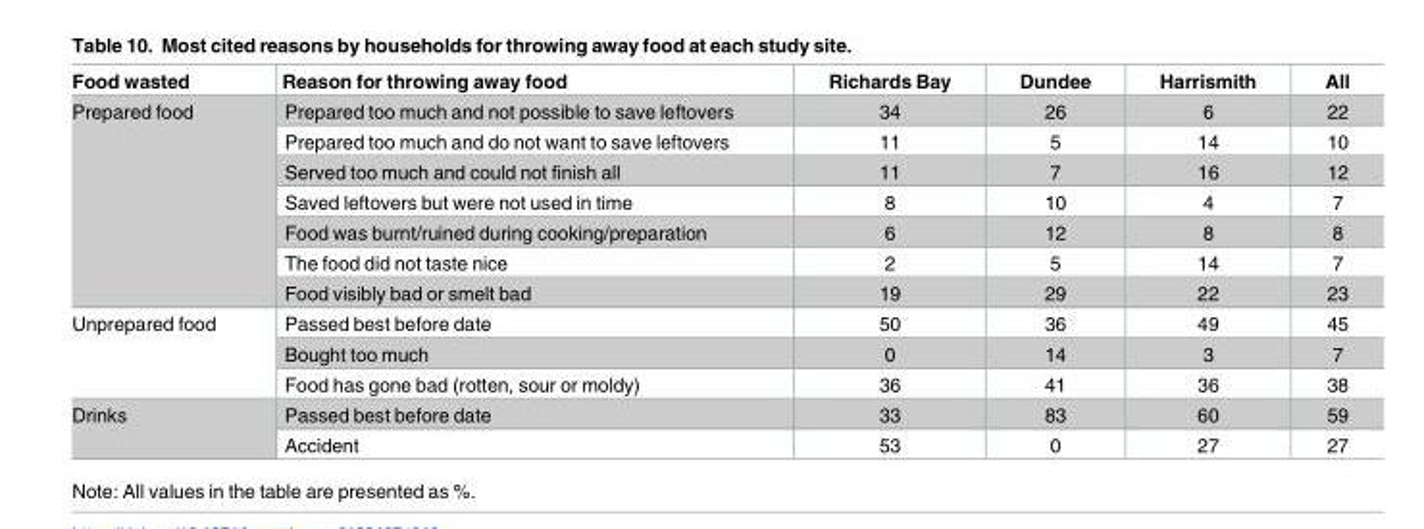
<table><thead><tr><td>Food wasted</td><td>Reason for throwing away food</td><td>Richards Bay</td><td>Dundee</td><td>Harrismith</td><td>All</td></tr></thead><tbody><tr><td rowspan="7">Prepared food</td><td>Prepared too much and not possible to save leftovers</td><td>34</td><td>26</td><td>6</td><td>22</td></tr><tr><td>Prepared too much and do not want to save leftovers</td><td>11</td><td>5</td><td>14</td><td>10</td></tr><tr><td>Served too much and could not finish all</td><td>11</td><td>7</td><td>16</td><td>12</td></tr><tr><td>Saved leftovers but were not used in time</td><td>8</td><td>10</td><td>4</td><td>7</td></tr><tr><td>Food was burnt/ruined during cooking/preparation</td><td>6</td><td>12</td><td>8</td><td>8</td></tr><tr><td>The food did not taste nice</td><td>2</td><td>5</td><td>14</td><td>7</td></tr><tr><td>Food visibly bad or smelt bad</td><td>19</td><td>29</td><td>22</td><td>23</td></tr><tr><td rowspan="3">Unprepared food</td><td>Passed best before date</td><td>50</td><td>36</td><td>49</td><td>45</td></tr><tr><td>Bought too much</td><td>0</td><td>14</td><td>3</td><td>7</td></tr><tr><td>Food has gone bad (rotten, sour or moldy)</td><td>36</td><td>41</td><td>36</td><td>38</td></tr><tr><td rowspan="2">Drinks</td><td>Passed best before date</td><td>33</td><td>83</td><td>60</td><td>59</td></tr><tr><td>Accident</td><td>53</td><td>0</td><td>27</td><td>27</td></tr></tbody></table>